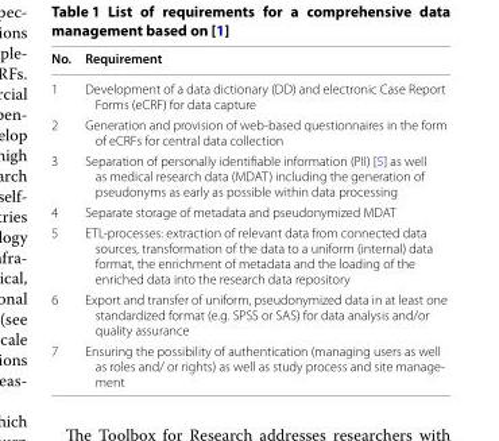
<table><thead><tr><td>No.</td><td>Requirement</td></tr></thead><tbody><tr><td>1</td><td>Development of a data dictionary (DD) and electronic Case Report Forms (eCRF) for data capture</td></tr><tr><td>2</td><td>Generation and provision of web-based questionnaires in the form of eCRFs for central data collection</td></tr><tr><td>3</td><td>Separation of personally identifiable information (PII) [5] as well as medical research data (MDAT) including the generation of pseudonyms as early as possible within data processing</td></tr><tr><td>4</td><td>Separate storage of metadata and pseudonymized MDAT</td></tr><tr><td>5</td><td>ETL-processes: extraction of relevant data from connected data sources, transformation of the data to a uniform (internal) data format, the enrichment of metadata and the loading of the enriched data into the research data repository</td></tr><tr><td>6</td><td>Export and transfer of uniform, pseudonymized data in at least one standardized format (e.g. SPSS or SAS) for data analysis and/or quality assurance</td></tr><tr><td>7</td><td>Ensuring the possibility of authentication (managing users as well as roles and/ or rights) as well as study process and site manage- ment</td></tr></tbody></table>